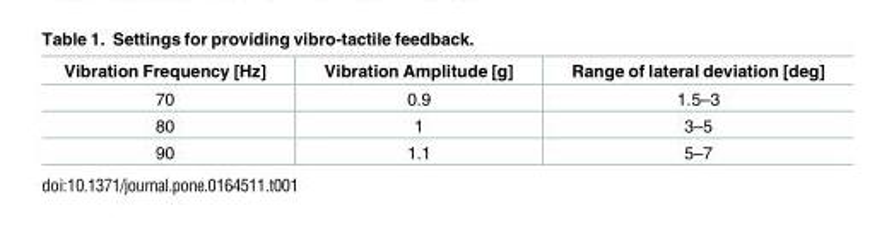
<table><thead><tr><td>Vibration Frequency [Hz]</td><td>Vibration Amplitude [g]</td><td>Range of lateral deviation [deg]</td></tr></thead><tbody><tr><td>70</td><td>0.9</td><td>1.5–3</td></tr><tr><td>80</td><td>1</td><td>3–5</td></tr><tr><td>90</td><td>1.1</td><td>5–7</td></tr></tbody></table>